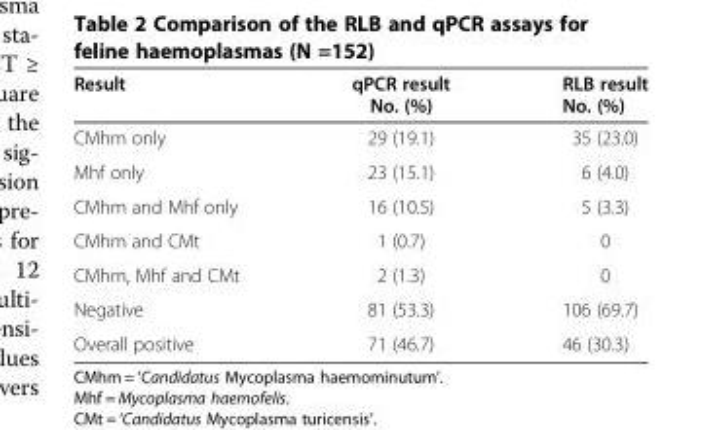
<table><thead><tr><td>Result</td><td>qPCR result No. (%)</td><td>RLB result No. (%)</td></tr></thead><tbody><tr><td>CMhm only</td><td>29 (19.1)</td><td>35 (23.0)</td></tr><tr><td>Mhf only</td><td>23 (15.1)</td><td>6 (4.0)</td></tr><tr><td>CMhm and Mhf only</td><td>16 (10.5)</td><td>5 (3.3)</td></tr><tr><td>CMhm and CMt</td><td>1 (0.7)</td><td>0</td></tr><tr><td>CMhm, Mhf and CMt</td><td>2 (1.3)</td><td>0</td></tr><tr><td>Negative</td><td>81 (53.3)</td><td>106 (69.7)</td></tr><tr><td>Overall positive</td><td>71 (46.7)</td><td>46 (30.3)</td></tr></tbody></table>